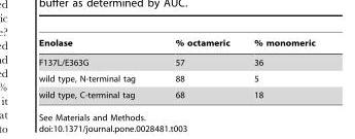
<table><thead><tr><td>Enolase</td><td>% octameric</td><td>% monomeric</td></tr></thead><tbody><tr><td>F137L/E363G</td><td>57</td><td>36</td></tr><tr><td>wild type, N-terminal tag</td><td>88</td><td>5</td></tr><tr><td>wild type, C-terminal tag</td><td>68</td><td>18</td></tr></tbody></table>